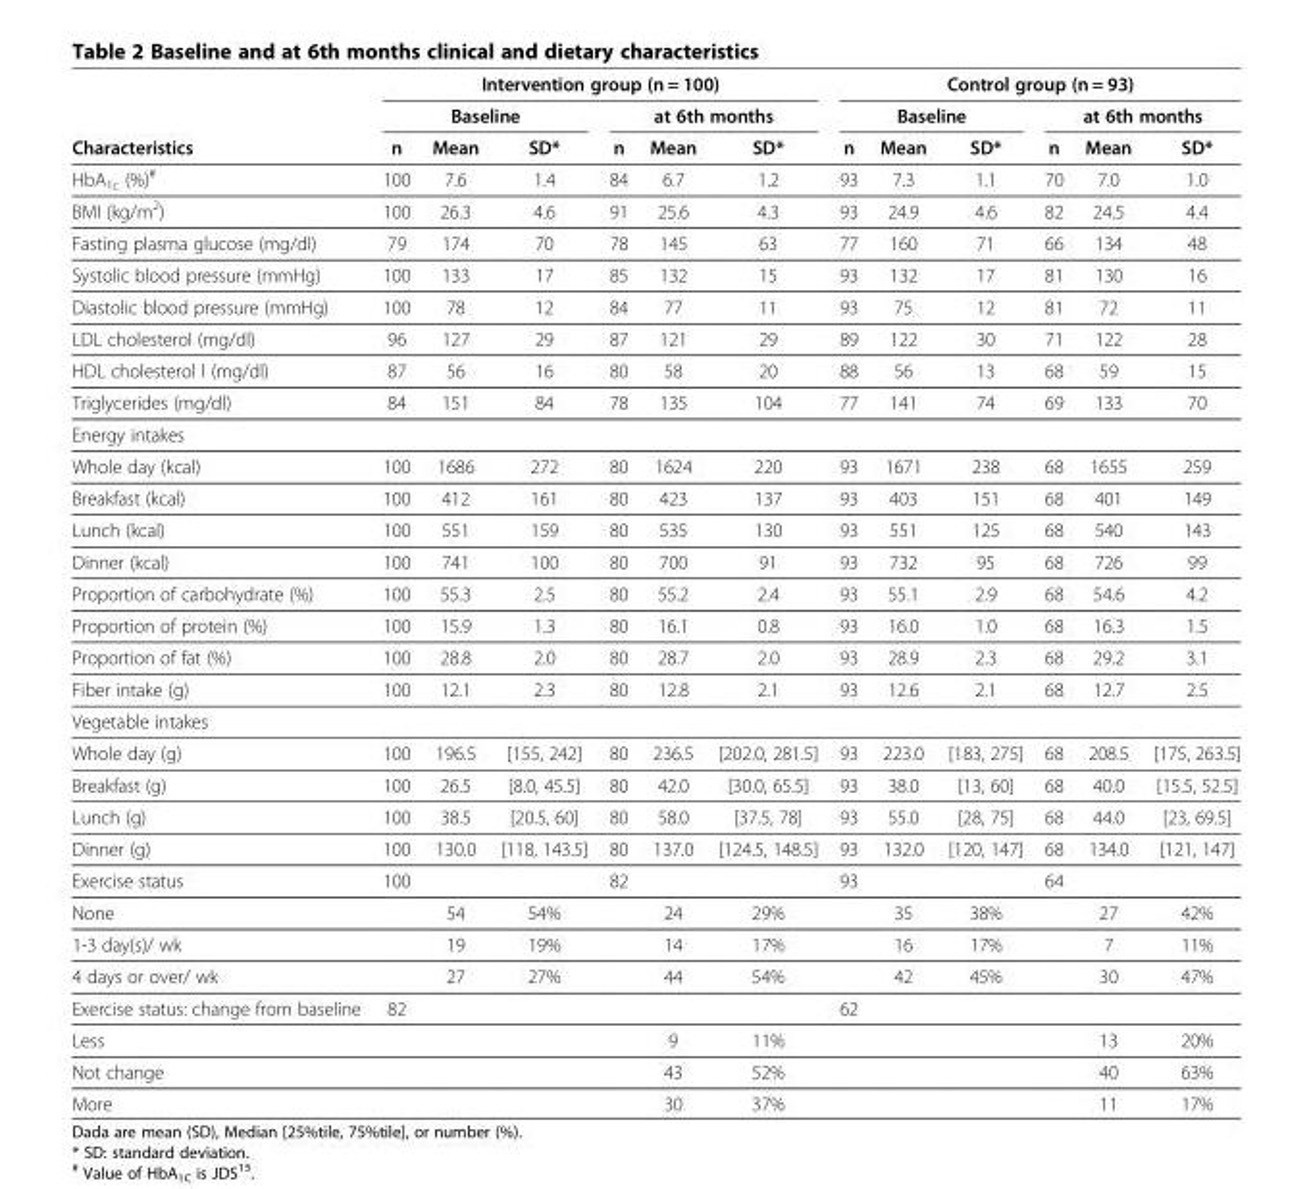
<table><thead><tr><td rowspan="3">Characteristics</td><td colspan="6">Intervention group (n = 100)</td><td colspan="6">Control group (n = 93)</td></tr><tr><td colspan="3">Baseline</td><td colspan="3">at 6th months</td><td colspan="3">Baseline</td><td colspan="3">at 6th months</td></tr><tr><td>n</td><td>Mean</td><td>SD*</td><td>n</td><td>Mean</td><td>SD*</td><td>n</td><td>Mean</td><td>SD*</td><td>n</td><td>Mean</td><td>SD*</td></tr></thead><tbody><tr><td>HbA<sub>1c</sub> (%)<sup>#</sup></td><td>100</td><td>7.6</td><td>1.4</td><td>84</td><td>6.7</td><td>1.2</td><td>93</td><td>7.3</td><td>1.1</td><td>70</td><td>7.0</td><td>1.0</td></tr><tr><td>BMI (kg/m<sup>2</sup>)</td><td>100</td><td>26.3</td><td>4.6</td><td>91</td><td>25.6</td><td>4.3</td><td>93</td><td>24.9</td><td>4.6</td><td>82</td><td>24.5</td><td>4.4</td></tr><tr><td>Fasting plasma glucose (mg/dl)</td><td>79</td><td>174</td><td>70</td><td>78</td><td>145</td><td>63</td><td>77</td><td>160</td><td>71</td><td>66</td><td>134</td><td>48</td></tr><tr><td>Systolic blood pressure (mmHg)</td><td>100</td><td>133</td><td>17</td><td>85</td><td>132</td><td>15</td><td>93</td><td>132</td><td>17</td><td>81</td><td>130</td><td>16</td></tr><tr><td>Diastolic blood pressure (mmHg)</td><td>100</td><td>78</td><td>12</td><td>84</td><td>77</td><td>11</td><td>93</td><td>75</td><td>12</td><td>81</td><td>72</td><td>11</td></tr><tr><td>LDL cholesterol (mg/dl)</td><td>96</td><td>127</td><td>29</td><td>87</td><td>121</td><td>29</td><td>89</td><td>122</td><td>30</td><td>71</td><td>122</td><td>28</td></tr><tr><td>HDL cholesterol l (mg/dl)</td><td>87</td><td>56</td><td>16</td><td>80</td><td>58</td><td>20</td><td>88</td><td>56</td><td>13</td><td>68</td><td>59</td><td>15</td></tr><tr><td>Triglycerides (mg/dl)</td><td>84</td><td>151</td><td>84</td><td>78</td><td>135</td><td>104</td><td>77</td><td>141</td><td>74</td><td>69</td><td>133</td><td>70</td></tr><tr><td colspan="13">Energy intakes</td></tr><tr><td>Whole day (kcal)</td><td>100</td><td>1686</td><td>272</td><td>80</td><td>1624</td><td>220</td><td>93</td><td>1671</td><td>238</td><td>68</td><td>1655</td><td>259</td></tr><tr><td>Breakfast (kcal)</td><td>100</td><td>412</td><td>161</td><td>80</td><td>423</td><td>137</td><td>93</td><td>403</td><td>151</td><td>68</td><td>401</td><td>149</td></tr><tr><td>Lunch (kcal)</td><td>100</td><td>551</td><td>159</td><td>80</td><td>535</td><td>130</td><td>93</td><td>551</td><td>125</td><td>68</td><td>540</td><td>143</td></tr><tr><td>Dinner (kcal)</td><td>100</td><td>741</td><td>100</td><td>80</td><td>700</td><td>91</td><td>93</td><td>732</td><td>95</td><td>68</td><td>726</td><td>99</td></tr><tr><td>Proportion of carbohydrate (%)</td><td>100</td><td>55.3</td><td>2.5</td><td>80</td><td>55.2</td><td>2.4</td><td>93</td><td>55.1</td><td>2.9</td><td>68</td><td>54.6</td><td>4.2</td></tr><tr><td>Proportion of protein (%)</td><td>100</td><td>15.9</td><td>1.3</td><td>80</td><td>16.1</td><td>0.8</td><td>93</td><td>16.0</td><td>1.0</td><td>68</td><td>16.3</td><td>1.5</td></tr><tr><td>Proportion of fat (%)</td><td>100</td><td>28.8</td><td>2.0</td><td>80</td><td>28.7</td><td>2.0</td><td>93</td><td>28.9</td><td>2.3</td><td>68</td><td>29.2</td><td>3.1</td></tr><tr><td>Fiber intake (g)</td><td>100</td><td>12.1</td><td>2.3</td><td>80</td><td>12.8</td><td>2.1</td><td>93</td><td>12.6</td><td>2.1</td><td>68</td><td>12.7</td><td>2.5</td></tr><tr><td colspan="13">Vegetable intakes</td></tr><tr><td>Whole day (g)</td><td>100</td><td>196.5</td><td>[155, 242]</td><td>80</td><td>236.5</td><td>[202.0, 281.5]</td><td>93</td><td>223.0</td><td>[183, 275]</td><td>68</td><td>208.5</td><td>[175, 263.5]</td></tr><tr><td>Breakfast (g)</td><td>100</td><td>26.5</td><td>[8.0, 45.5]</td><td>80</td><td>42.0</td><td>[30.0, 65.5]</td><td>93</td><td>38.0</td><td>[13, 60]</td><td>68</td><td>40.0</td><td>[15.5, 52.5]</td></tr><tr><td>Lunch (g)</td><td>100</td><td>38.5</td><td>[20.5, 60]</td><td>80</td><td>58.0</td><td>[37.5, 78]</td><td>93</td><td>55.0</td><td>[28, 75]</td><td>68</td><td>44.0</td><td>[23, 69.5]</td></tr><tr><td>Dinner (g)</td><td>100</td><td>130.0</td><td>[118, 143.5]</td><td>80</td><td>137.0</td><td>[124.5, 148.5]</td><td>93</td><td>132.0</td><td>[120, 147]</td><td>68</td><td>134.0</td><td>[121, 147]</td></tr><tr><td>Exercise status</td><td>100</td><td></td><td></td><td>82</td><td></td><td></td><td>93</td><td></td><td></td><td>64</td><td></td><td></td></tr><tr><td>None</td><td></td><td>54</td><td>54%</td><td></td><td>24</td><td>29%</td><td></td><td>35</td><td>38%</td><td></td><td>27</td><td>42%</td></tr><tr><td>1-3 day(s)/ wk</td><td></td><td>19</td><td>19%</td><td></td><td>14</td><td>17%</td><td></td><td>16</td><td>17%</td><td></td><td>7</td><td>11%</td></tr><tr><td>4 days or over/ wk</td><td></td><td>27</td><td>27%</td><td></td><td>44</td><td>54%</td><td></td><td>42</td><td>45%</td><td></td><td>30</td><td>47%</td></tr><tr><td>Exercise status: change from baseline</td><td>82</td><td></td><td></td><td></td><td></td><td></td><td>62</td><td></td><td></td><td></td><td></td><td></td></tr><tr><td>Less</td><td></td><td></td><td></td><td></td><td>9</td><td>11%</td><td></td><td></td><td></td><td></td><td>13</td><td>20%</td></tr><tr><td>Not change</td><td></td><td></td><td></td><td></td><td>43</td><td>52%</td><td></td><td></td><td></td><td></td><td>40</td><td>63%</td></tr><tr><td>More</td><td></td><td></td><td></td><td></td><td>30</td><td>37%</td><td></td><td></td><td></td><td></td><td>11</td><td>17%</td></tr></tbody></table>